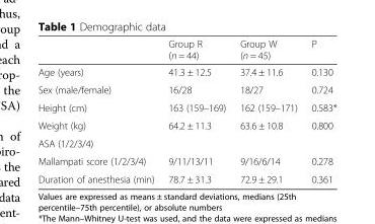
<table><thead><tr><td></td><td>Group R (n = 44)</td><td>Group W (n = 45)</td><td>P</td></tr></thead><tbody><tr><td>Age (years)</td><td>41.3 ± 12.5</td><td>37.4 ± 11.6</td><td>0.130</td></tr><tr><td>Sex (male/female)</td><td>16/28</td><td>18/27</td><td>0.724</td></tr><tr><td>Height (cm)</td><td>163 (159–169)</td><td>162 (159–171)</td><td>0.583*</td></tr><tr><td>Weight (kg)</td><td>64.2 ± 11.3</td><td>63.6 ± 10.8</td><td>0.800</td></tr><tr><td colspan="4">ASA (1/2/3/4)</td></tr><tr><td>Mallampati score (1/2/3/4)</td><td>9/11/13/11</td><td>9/16/6/14</td><td>0.278</td></tr><tr><td>Duration of anesthesia (min)</td><td>78.7 ± 31.3</td><td>72.9 ± 29.1</td><td>0.361</td></tr></tbody></table>